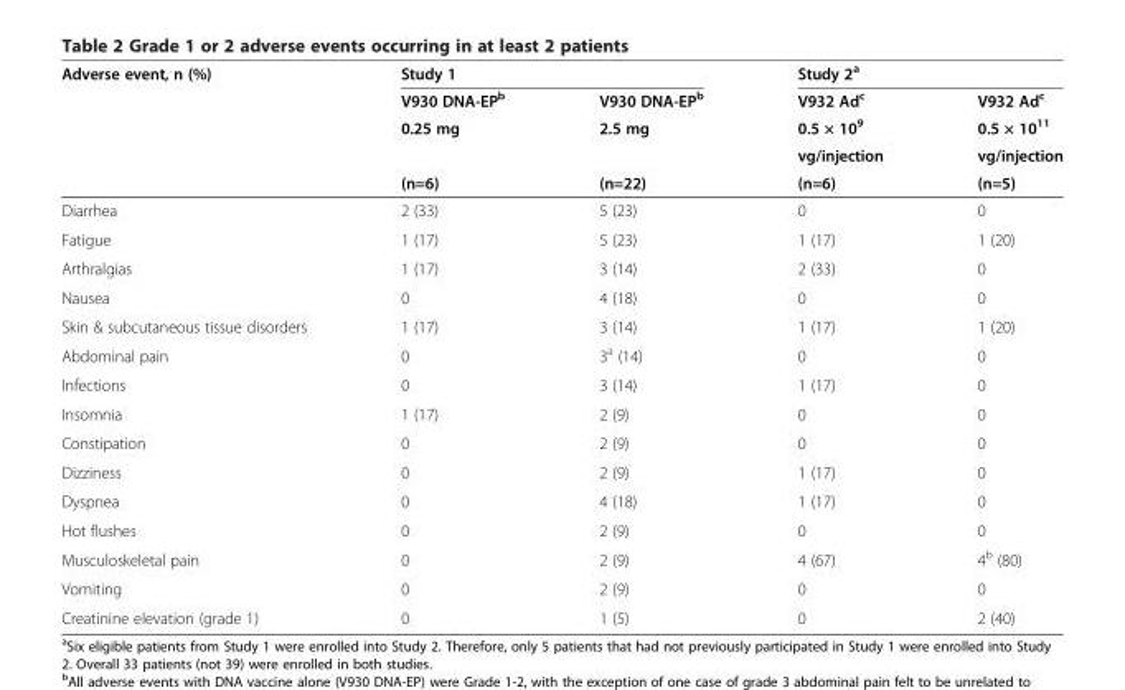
<table><thead><tr><td rowspan="5">Adverse event, n (%)</td><td colspan="2">Study 1</td><td colspan="2">Study 2<sup>a</sup></td></tr><tr><td rowspan="4">V930 DNA-EP<sup>b</sup> 0.25 mg (n=6)</td><td rowspan="4">V930 DNA-EP<sup>b</sup> 2.5 mg (n=22)</td><td rowspan="4">V932 Ad<sup>c</sup> 0.5 × 10<sup>9</sup> vg/injection (n=6)</td><td rowspan="4">V932 Ad<sup>c</sup> 0.5 × 10<sup>11</sup> vg/injection (n=5)</td></tr><tr></tr><tr></tr><tr></tr></thead><tbody><tr><td>Diarrhea</td><td>2 (33)</td><td>5 (23)</td><td>0</td><td>0</td></tr><tr><td>Fatigue</td><td>1 (17)</td><td>5 (23)</td><td>1 (17)</td><td>1 (20)</td></tr><tr><td>Arthralgias</td><td>1 (17)</td><td>3 (14)</td><td>2 (33)</td><td>0</td></tr><tr><td>Nausea</td><td>0</td><td>4 (18)</td><td>0</td><td>0</td></tr><tr><td>Skin &amp; subcutaneous tissue disorders</td><td>1 (17)</td><td>3 (14)</td><td>1 (17)</td><td>1 (20)</td></tr><tr><td>Abdominal pain</td><td>0</td><td>3<sup>a</sup> (14)</td><td>0</td><td>0</td></tr><tr><td>Infections</td><td>0</td><td>3 (14)</td><td>1 (17)</td><td>0</td></tr><tr><td>Insomnia</td><td>1 (17)</td><td>2 (9)</td><td>0</td><td>0</td></tr><tr><td>Constipation</td><td>0</td><td>2 (9)</td><td>0</td><td>0</td></tr><tr><td>Dizziness</td><td>0</td><td>2 (9)</td><td>1 (17)</td><td>0</td></tr><tr><td>Dyspnea</td><td>0</td><td>4 (18)</td><td>1 (17)</td><td>0</td></tr><tr><td>Hot flushes</td><td>0</td><td>2 (9)</td><td>0</td><td>0</td></tr><tr><td>Musculoskeletal pain</td><td>0</td><td>2 (9)</td><td>4 (67)</td><td>4<sup>b</sup> (80)</td></tr><tr><td>Vomiting</td><td>0</td><td>2 (9)</td><td>0</td><td>0</td></tr><tr><td>Creatinine elevation (grade 1)</td><td>0</td><td>1 (5)</td><td>0</td><td>2 (40)</td></tr></tbody></table>